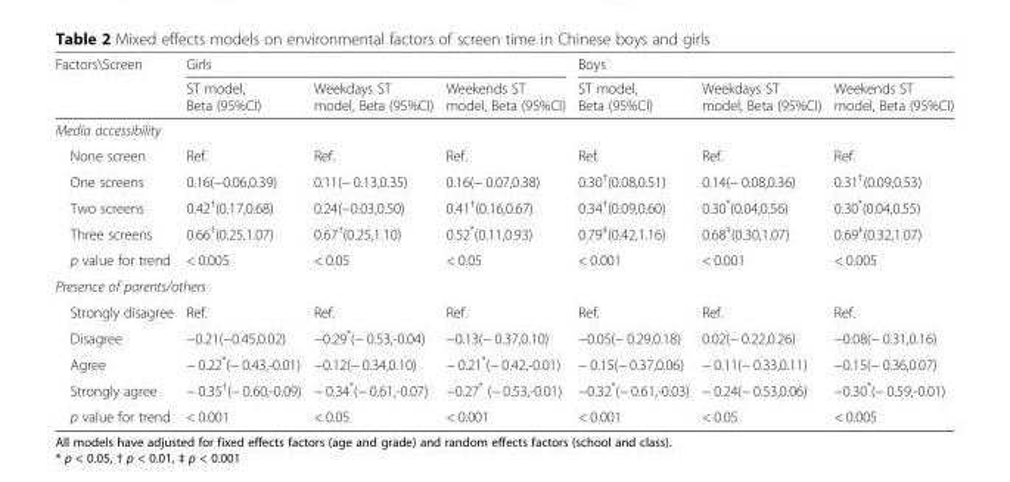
<table><thead><tr><td rowspan="2">Factors\Screen</td><td colspan="3">Girls</td><td colspan="3">Boys</td></tr><tr><td>ST model, Beta (95%CI)</td><td>Weekdays ST model, Beta (95%CI)</td><td>Weekends ST model, Beta (95%CI)</td><td>ST model, Beta (95%CI)</td><td>Weekdays ST model, Beta (95%CI)</td><td>Weekends ST model, Beta (95%CI)</td></tr></thead><tbody><tr><td colspan="7">Media accessibility</td></tr><tr><td>None screen</td><td>Ref.</td><td>Ref.</td><td>Ref.</td><td>Ref.</td><td>Ref.</td><td>Ref.</td></tr><tr><td>One screens</td><td>0.16(−0.06,0.39)</td><td>0.11(− 0.13,0.35)</td><td>0.16(− 0.07,0.38)</td><td>0.30<sup>†</sup>(0.08,0.51)</td><td>0.14(− 0.08,0.36)</td><td>0.31<sup>†</sup>(0.09,0.53)</td></tr><tr><td>Two screens</td><td>0.42<sup>†</sup>(0.17,0.68)</td><td>0.24(−0.03,0.50)</td><td>0.41<sup>†</sup>(0.16,0.67)</td><td>0.34<sup>†</sup>(0.09,0.60)</td><td>0.30*(0.04,0.56)</td><td>0.30*(0.04,0.55)</td></tr><tr><td>Three screens</td><td>0.66<sup>†</sup>(0.25,1.07)</td><td>0.67<sup>†</sup>(0.25,1.10)</td><td>0.52*(0.11,0.93)</td><td>0.79<sup>‡</sup>(0.42,1.16)</td><td>0.68<sup>‡</sup>(0.30,1.07)</td><td>0.69<sup>‡</sup>(0.32,1.07)</td></tr><tr><td>p value for trend</td><td>&lt; 0.005</td><td>&lt; 0.05</td><td>&lt; 0.05</td><td>&lt; 0.001</td><td>&lt; 0.001</td><td>&lt; 0.005</td></tr><tr><td colspan="7">Presence of parents/others</td></tr><tr><td>Strongly disagree</td><td>Ref.</td><td>Ref.</td><td>Ref.</td><td>Ref.</td><td>Ref.</td><td>Ref.</td></tr><tr><td>Disagree</td><td>−0.21(−0.45,0.02)</td><td>−0.29*(− 0.53,-0.04)</td><td>−0.13(− 0.37,0.10)</td><td>−0.05(− 0.29,0.18)</td><td>0.02(− 0.22,0.26)</td><td>−0.08(− 0.31,0.16)</td></tr><tr><td>Agree</td><td>− 0.22*(− 0.43,-0.01)</td><td>−0.12(− 0.34,0.10)</td><td>− 0.21*(− 0.42,-0.01)</td><td>− 0.15(− 0.37,0.06)</td><td>− 0.11(− 0.33,0.11)</td><td>−0.15(− 0.36,0.07)</td></tr><tr><td>Strongly agree</td><td>− 0.35<sup>†</sup>(− 0.60,-0.09)</td><td>− 0.34*(− 0.61,-0.07)</td><td>−0.27* (− 0.53,-0.01)</td><td>−0.32*(− 0.61,-0.03)</td><td>− 0.24(− 0.53,0.06)</td><td>−0.30*(− 0.59,-0.01)</td></tr><tr><td>p value for trend</td><td>&lt; 0.001</td><td>&lt; 0.05</td><td>&lt; 0.001</td><td>&lt; 0.001</td><td>&lt; 0.05</td><td>&lt; 0.005</td></tr></tbody></table>